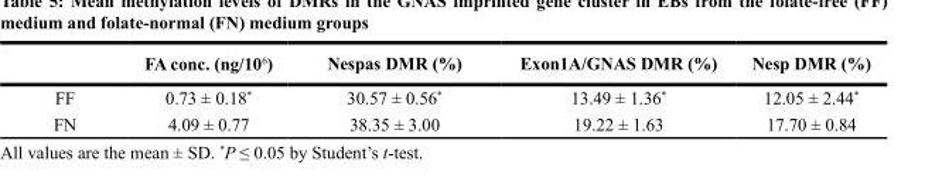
<table><thead><tr><td></td><td>FA conc. (ng/10<sup>6</sup>)</td><td>Nespas DMR (%)</td><td>Exon1A/GNAS DMR (%)</td><td>Nesp DMR (%)</td></tr></thead><tbody><tr><td>FF</td><td>0.73 ± 0.18*</td><td>30.57 ± 0.56*</td><td>13.49 ± 1.36*</td><td>12.05 ± 2.44*</td></tr><tr><td>FN</td><td>4.09 ± 0.77</td><td>38.35 ± 3.00</td><td>19.22 ± 1.63</td><td>17.70 ± 0.84</td></tr></tbody></table>